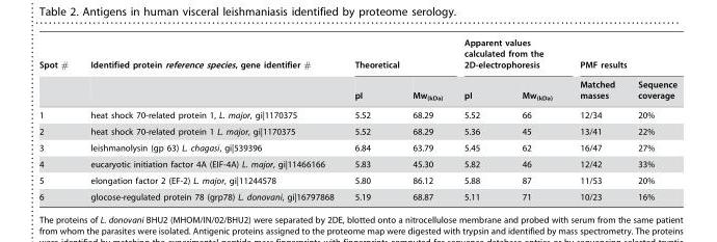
<table><thead><tr><td rowspan="2">Spot #</td><td rowspan="2">Identified protein reference species, gene identifier #</td><td colspan="2">Theoretical</td><td colspan="2">Apparent values calculated from the 2D-electrophoresis</td><td colspan="2">PMF results</td></tr><tr><td>pI</td><td>Mw<sub>(kDa)</sub></td><td>pI</td><td>Mw<sub>(kDa)</sub></td><td>Matched masses</td><td>Sequence coverage</td></tr></thead><tbody><tr><td>1</td><td>heat shock 70-related protein 1, L. major, gi|1170375</td><td>5.52</td><td>68.29</td><td>5.52</td><td>66</td><td>12/34</td><td>20%</td></tr><tr><td>2</td><td>heat shock 70-related protein 1 L. major, gi|1170375</td><td>5.52</td><td>68.29</td><td>5.36</td><td>45</td><td>13/41</td><td>22%</td></tr><tr><td>3</td><td>leishmanolysin (gp 63) L. chagasi, gi|539396</td><td>6.84</td><td>63.79</td><td>5.45</td><td>62</td><td>16/47</td><td>27%</td></tr><tr><td>4</td><td>eucaryotic initiation factor 4A (EIF-4A) L. major, gi|11466166</td><td>5.83</td><td>45.30</td><td>5.82</td><td>46</td><td>12/42</td><td>33%</td></tr><tr><td>5</td><td>elongation factor 2 (EF-2) L. major, gi|11244578</td><td>5.80</td><td>86.12</td><td>5.88</td><td>87</td><td>11/53</td><td>20%</td></tr><tr><td>6</td><td>glocose-regulated protein 78 (grp78) L. donovani, gi|16797868</td><td>5.19</td><td>68.87</td><td>5.11</td><td>71</td><td>10/23</td><td>16%</td></tr></tbody></table>